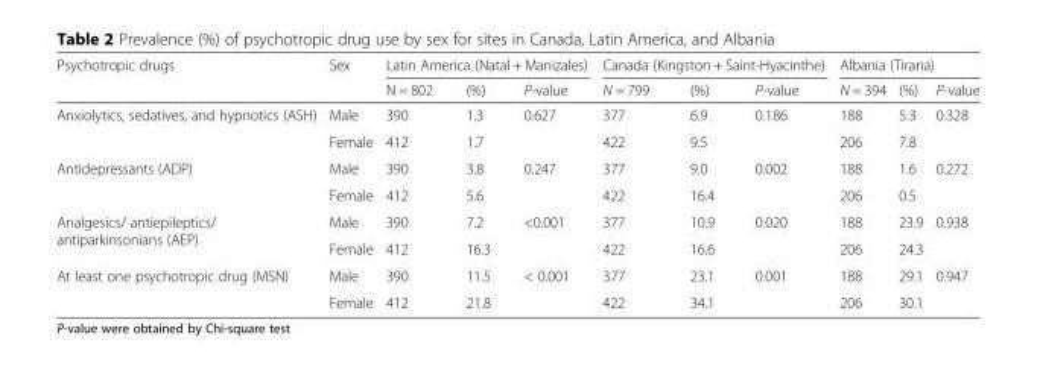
<table><thead><tr><td rowspan="2">Psychotropic drugs</td><td rowspan="2">Sex</td><td colspan="3">Latin America (Natal + Manizales)</td><td colspan="3">Canada (Kingston + Saint-Hyacinthe)</td><td colspan="3">Albania (Tirana)</td></tr><tr><td>N = 802</td><td>(%)</td><td>P-value</td><td>N = 799</td><td>(%)</td><td>P-value</td><td>N = 394</td><td>(%)</td><td>P-value</td></tr></thead><tbody><tr><td rowspan="2">Anxiolytics, sedatives, and hypnotics (ASH)</td><td>Male</td><td>390</td><td>1.3</td><td>0.627</td><td>377</td><td>6.9</td><td>0.186</td><td>188</td><td>5.3</td><td>0.328</td></tr><tr><td>Female</td><td>412</td><td>1.7</td><td></td><td>422</td><td>9.5</td><td></td><td>206</td><td>7.8</td><td></td></tr><tr><td rowspan="2">Antidepressants (ADP)</td><td>Male</td><td>390</td><td>3.8</td><td>0.247</td><td>377</td><td>9.0</td><td>0.002</td><td>188</td><td>1.6</td><td>0.272</td></tr><tr><td>Female</td><td>412</td><td>5.6</td><td></td><td>422</td><td>16.4</td><td></td><td>206</td><td>0.5</td><td></td></tr><tr><td rowspan="2">Analgesics/ antiepileptics/ antiparkinsonians (AEP)</td><td>Male</td><td>390</td><td>7.2</td><td>&lt;0.001</td><td>377</td><td>10.9</td><td>0.020</td><td>188</td><td>23.9</td><td>0.938</td></tr><tr><td>Female</td><td>412</td><td>16.3</td><td></td><td>422</td><td>16.6</td><td></td><td>206</td><td>24.3</td><td></td></tr><tr><td rowspan="2">At least one psychotropic drug (MSN)</td><td>Male</td><td>390</td><td>11.5</td><td>&lt; 0.001</td><td>377</td><td>23.1</td><td>0.001</td><td>188</td><td>29.1</td><td>0.947</td></tr><tr><td>Female</td><td>412</td><td>21.8</td><td></td><td>422</td><td>34.1</td><td></td><td>206</td><td>30.1</td><td></td></tr></tbody></table>